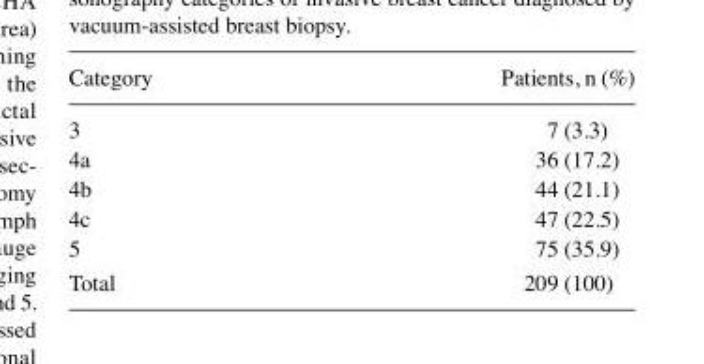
<table><thead><tr><td>Category</td><td>Patients, n (%)</td></tr></thead><tbody><tr><td>3</td><td>7 (3.3)</td></tr><tr><td>4a</td><td>36 (17.2)</td></tr><tr><td>4b</td><td>44 (21.1)</td></tr><tr><td>4c</td><td>47 (22.5)</td></tr><tr><td>5</td><td>75 (35.9)</td></tr><tr><td>Total</td><td>209 (100)</td></tr></tbody></table>